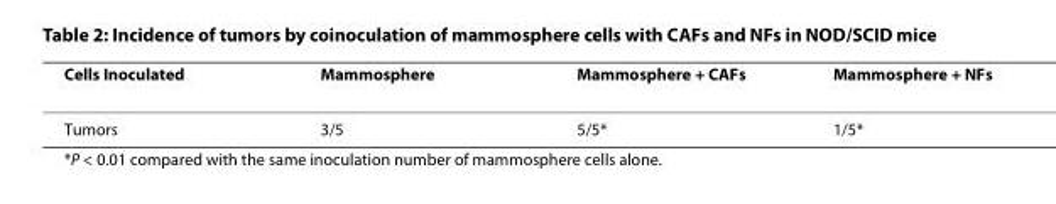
<table><thead><tr><td>Cells Inoculated</td><td>Mammosphere</td><td>Mammosphere + CAFs</td><td>Mammosphere + NFs</td></tr></thead><tbody><tr><td>Tumors</td><td>3/5</td><td>5/5*</td><td>1/5*</td></tr></tbody></table>